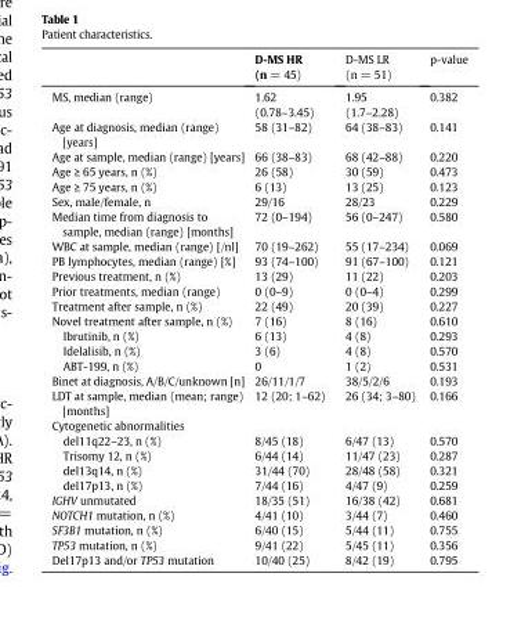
<table><thead><tr><td></td><td>D-MS HR (n = 45)</td><td>D-MS LR (n = 51)</td><td>p-value</td></tr></thead><tbody><tr><td>MS, median (range)</td><td>1.62 (0.78–3.45)</td><td>1.95 (1.7–2.28)</td><td>0.382</td></tr><tr><td>Age at diagnosis, median (range) [years]</td><td>58 (31–82)</td><td>64 (38–83)</td><td>0.141</td></tr><tr><td>Age at sample, median (range) [years]</td><td>66 (38–83)</td><td>68 (42–88)</td><td>0.220</td></tr><tr><td>Age ≥ 65 years, n (%)</td><td>26 (58)</td><td>30 (59)</td><td>0.473</td></tr><tr><td>Age ≥ 75 years, n (%)</td><td>6 (13)</td><td>13 (25)</td><td>0.123</td></tr><tr><td>Sex, male/female, n</td><td>29/16</td><td>28/23</td><td>0.229</td></tr><tr><td>Median time from diagnosis to sample, median (range) [months]</td><td>72 (0–194)</td><td>56 (0–247)</td><td>0.580</td></tr><tr><td>WBC at sample, median (range) [/nl]</td><td>70 (19–262)</td><td>55 (17–234)</td><td>0.069</td></tr><tr><td>PB lymphocytes, median (range) [%]</td><td>93 (74–100)</td><td>91 (67–100)</td><td>0.121</td></tr><tr><td>Previous treatment, n (%)</td><td>13 (29)</td><td>11 (22)</td><td>0.203</td></tr><tr><td>Prior treatments, median (range)</td><td>0 (0–9)</td><td>0 (0–4)</td><td>0.299</td></tr><tr><td>Treatment after sample, n (%)</td><td>22 (49)</td><td>20 (39)</td><td>0.227</td></tr><tr><td>Novel treatment after sample, n (%)</td><td>7 (16)</td><td>8 (16)</td><td>0.610</td></tr><tr><td>Ibrutinib, n (%)</td><td>6 (13)</td><td>4 (8)</td><td>0.293</td></tr><tr><td>Idelalisib, n (%)</td><td>3 (6)</td><td>4 (8)</td><td>0.570</td></tr><tr><td>ABT-199, n (%)</td><td>0</td><td>1 (2)</td><td>0.531</td></tr><tr><td>Binet at diagnosis, A/B/C/unknown [n]</td><td>26/11/1/7</td><td>38/5/2/6</td><td>0.193</td></tr><tr><td>LDT at sample, median (mean; range) [months]</td><td>12 (20; 1–62)</td><td>26 (34; 3–80)</td><td>0.166</td></tr><tr><td colspan="4">Cytogenetic abnormalities</td></tr><tr><td>del11q22–23, n (%)</td><td>8/45 (18)</td><td>6/47 (13)</td><td>0.570</td></tr><tr><td>Trisomy 12, n (%)</td><td>6/44 (14)</td><td>11/47 (23)</td><td>0.287</td></tr><tr><td>del13q14, n (%)</td><td>31/44 (70)</td><td>28/48 (58)</td><td>0.321</td></tr><tr><td>del17p13, n (%)</td><td>7/44 (16)</td><td>4/47 (9)</td><td>0.259</td></tr><tr><td>IGHV unmutated</td><td>18/35 (51)</td><td>16/38 (42)</td><td>0.681</td></tr><tr><td>NOTCH1 mutation, n (%)</td><td>4/41 (10)</td><td>3/44 (7)</td><td>0.460</td></tr><tr><td>SF3B1 mutation, n (%)</td><td>6/40 (15)</td><td>5/44 (11)</td><td>0.755</td></tr><tr><td>TP53 mutation, n (%)</td><td>9/41 (22)</td><td>5/45 (11)</td><td>0.356</td></tr><tr><td>Del17p13 and/or TP53 mutation</td><td>10/40 (25)</td><td>8/42 (19)</td><td>0.795</td></tr></tbody></table>